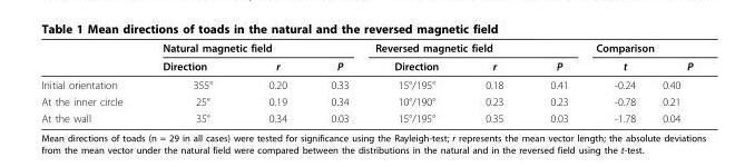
<table><thead><tr><td rowspan="2"></td><td colspan="3">Natural magnetic field</td><td colspan="3">Reversed magnetic field</td><td colspan="2">Comparison</td></tr><tr><td>Direction</td><td>r</td><td>P</td><td>Direction</td><td>r</td><td>P</td><td>t</td><td>P</td></tr></thead><tbody><tr><td>Initial orientation</td><td>355°</td><td>0.20</td><td>0.33</td><td>15°/195°</td><td>0.18</td><td>0.41</td><td>-0.24</td><td>0.40</td></tr><tr><td>At the inner circle</td><td>25°</td><td>0.19</td><td>0.34</td><td>10°/190°</td><td>0.23</td><td>0.23</td><td>-0.78</td><td>0.21</td></tr><tr><td>At the wall</td><td>35°</td><td>0.34</td><td>0.03</td><td>15°/195°</td><td>0.35</td><td>0.03</td><td>-1.78</td><td>0.04</td></tr></tbody></table>